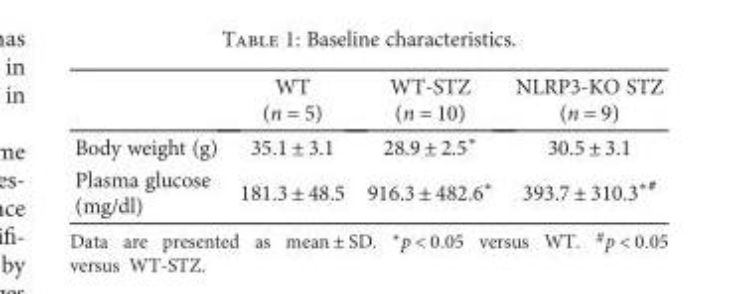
<table><thead><tr><td></td><td>WT (n = 5)</td><td>WT-STZ (n = 10)</td><td>NLRP3-KO STZ (n = 9)</td></tr></thead><tbody><tr><td>Body weight (g)</td><td>35.1 ± 3.1</td><td>28.9 ± 2.5∗</td><td>30.5 ± 3.1</td></tr><tr><td>Plasma glucose (mg/dl)</td><td>181.3 ± 48.5</td><td>916.3 ± 482.6∗</td><td>393.7 ± 310.3<sup>∗#</sup></td></tr></tbody></table>